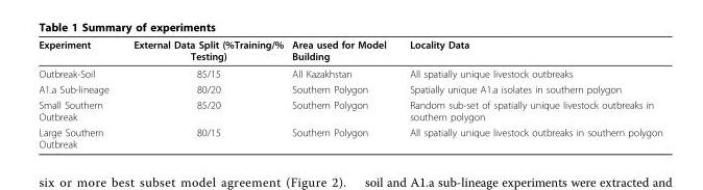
<table><thead><tr><td>Experiment</td><td>External Data Split (%Training/% Testing)</td><td>Area used for Model Building</td><td>Locality Data</td></tr></thead><tbody><tr><td>Outbreak-Soil</td><td>85/15</td><td>All Kazakhstan</td><td>All spatially unique livestock outbreaks</td></tr><tr><td>A1.a Sub-lineage</td><td>80/20</td><td>Southern Polygon</td><td>Spatially unique A1.a isolates in southern polygon</td></tr><tr><td>Small Southern Outbreak</td><td>85/20</td><td>Southern Polygon</td><td>Random sub-set of spatially unique livestock outbreaks in southern polygon</td></tr><tr><td>Large Southern Outbreak</td><td>80/15</td><td>Southern Polygon</td><td>All spatially unique livestock outbreaks in southern polygon</td></tr></tbody></table>